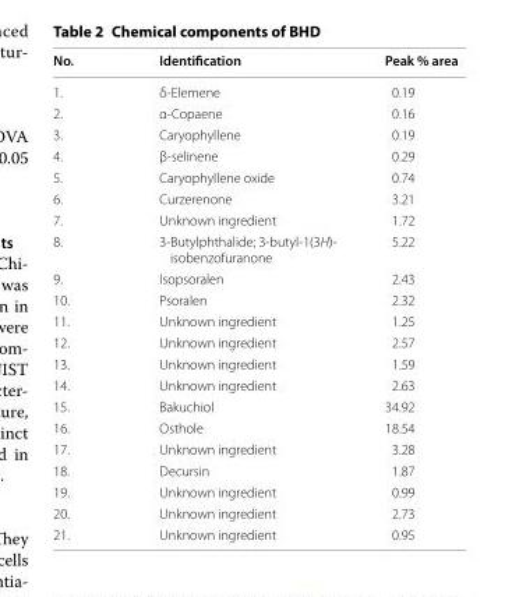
<table><thead><tr><td>No.</td><td>Identification</td><td>Peak % area</td></tr></thead><tbody><tr><td>1.</td><td>δ-Elemene</td><td>0.19</td></tr><tr><td>2.</td><td>α-Copaene</td><td>0.16</td></tr><tr><td>3.</td><td>Caryophyllene</td><td>0.19</td></tr><tr><td>4.</td><td>β-selinene</td><td>0.29</td></tr><tr><td>5.</td><td>Caryophyllene oxide</td><td>0.74</td></tr><tr><td>6.</td><td>Curzerenone</td><td>3.21</td></tr><tr><td>7.</td><td>Unknown ingredient</td><td>1.72</td></tr><tr><td>8.</td><td>3-Butylphthalide; 3-butyl-1(3H)- isobenzofuranone</td><td>5.22</td></tr><tr><td>9.</td><td>Isopsoralen</td><td>2.43</td></tr><tr><td>10.</td><td>Psoralen</td><td>2.32</td></tr><tr><td>11.</td><td>Unknown ingredient</td><td>1.25</td></tr><tr><td>12.</td><td>Unknown ingredient</td><td>2.57</td></tr><tr><td>13.</td><td>Unknown ingredient</td><td>1.59</td></tr><tr><td>14.</td><td>Unknown ingredient</td><td>2.63</td></tr><tr><td>15.</td><td>Bakuchiol</td><td>34.92</td></tr><tr><td>16.</td><td>Osthole</td><td>18.54</td></tr><tr><td>17.</td><td>Unknown ingredient</td><td>3.28</td></tr><tr><td>18.</td><td>Decursin</td><td>1.87</td></tr><tr><td>19.</td><td>Unknown ingredient</td><td>0.99</td></tr><tr><td>20.</td><td>Unknown ingredient</td><td>2.73</td></tr><tr><td>21.</td><td>Unknown ingredient</td><td>0.95</td></tr></tbody></table>